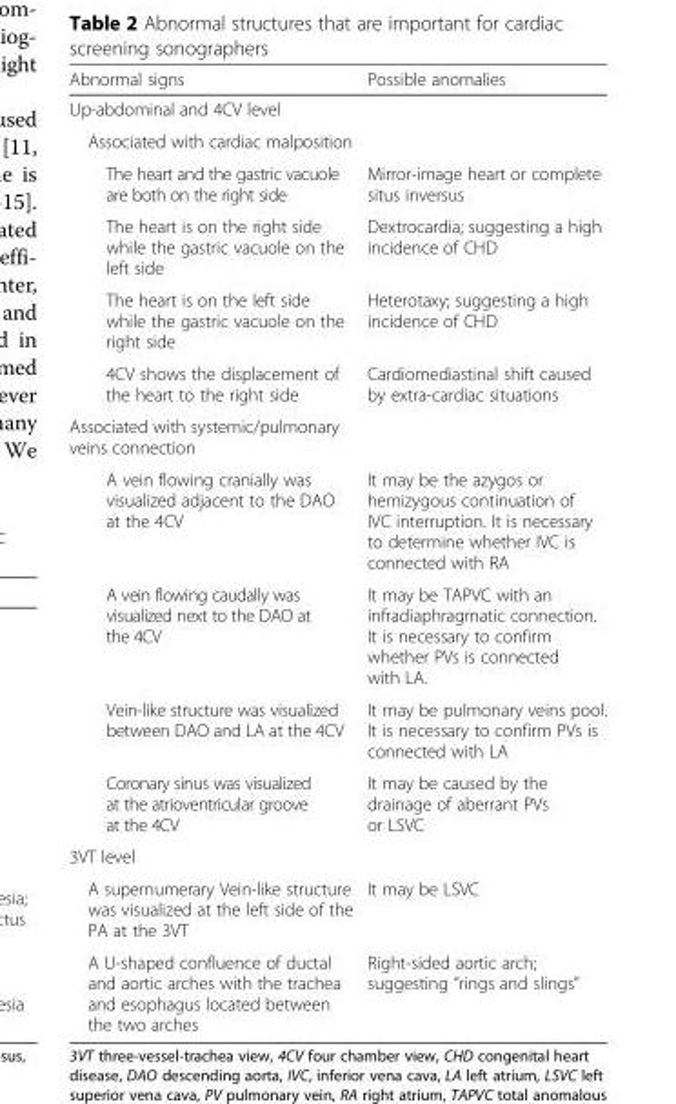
<table><thead><tr><td>Abnormal signs</td><td>Possible anomalies</td></tr></thead><tbody><tr><td colspan="2">Up-abdominal and 4CV level</td></tr><tr><td colspan="2">Associated with cardiac malposition</td></tr><tr><td>The heart and the gastric vacuole are both on the right side</td><td>Mirror-image heart or complete situs inversus</td></tr><tr><td>The heart is on the right side while the gastric vacuole on the left side</td><td>Dextrocardia; suggesting a high incidence of CHD</td></tr><tr><td>The heart is on the left side while the gastric vacuole on the right side</td><td>Heterotaxy; suggesting a high incidence of CHD</td></tr><tr><td>4CV shows the displacement of the heart to the right side</td><td>Cardiomediastinal shift caused by extra-cardiac situations</td></tr><tr><td colspan="2">Associated with systemic/pulmonary veins connection</td></tr><tr><td>A vein flowing cranially was visualized adjacent to the DAO at the 4CV</td><td>It may be the azygos or hemizygous continuation of IVC interruption. It is necessary to determine whether IVC is connected with RA</td></tr><tr><td>A vein flowing caudally was visualized next to the DAO at the 4CV</td><td>It may be TAPVC with an infradiaphragmatic connection. It is necessary to confirm whether PVs is connected with LA.</td></tr><tr><td>Vein-like structure was visualized between DAO and LA at the 4CV</td><td>It may be pulmonary veins pool. It is necessary to confirm PVs is connected with LA</td></tr><tr><td>Coronary sinus was visualized at the atrioventricular groove at the 4CV</td><td>It may be caused by the drainage of aberrant PVs or LSVC</td></tr><tr><td colspan="2">3VT level</td></tr><tr><td>A supernumerary Vein-like structure was visualized at the left side of the PA at the 3VT</td><td>It may be LSVC</td></tr><tr><td>A U-shaped confluence of ductal and aortic arches with the trachea and esophagus located between the two arches</td><td>Right-sided aortic arch; suggesting “rings and slings”</td></tr></tbody></table>